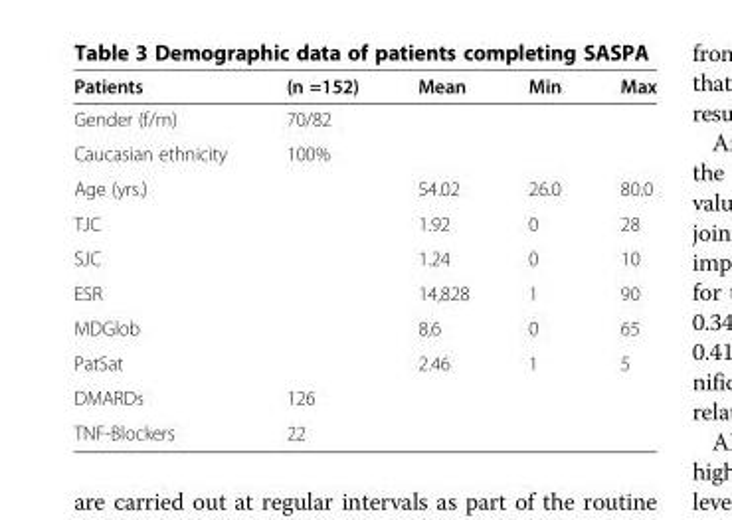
<table><thead><tr><td>Patients</td><td>(n =152)</td><td>Mean</td><td>Min</td><td>Max</td></tr></thead><tbody><tr><td>Gender (f/m)</td><td>70/82</td><td></td><td></td><td></td></tr><tr><td>Caucasian ethnicity</td><td>100%</td><td></td><td></td><td></td></tr><tr><td>Age (yrs.)</td><td></td><td>54.02</td><td>26.0</td><td>80.0</td></tr><tr><td>TJC</td><td></td><td>1.92</td><td>0</td><td>28</td></tr><tr><td>SJC</td><td></td><td>1.24</td><td>0</td><td>10</td></tr><tr><td>ESR</td><td></td><td>14,828</td><td>1</td><td>90</td></tr><tr><td>MDGlob</td><td></td><td>8,6</td><td>0</td><td>65</td></tr><tr><td>PatSat</td><td></td><td>2.46</td><td>1</td><td>5</td></tr><tr><td>DMARDs</td><td>126</td><td></td><td></td><td></td></tr><tr><td>TNF-Blockers</td><td>22</td><td></td><td></td><td></td></tr></tbody></table>